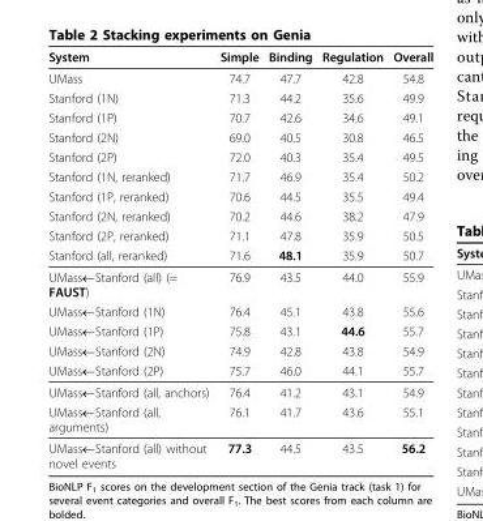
<table><thead><tr><td>System</td><td>Simple</td><td>Binding</td><td>Regulation</td><td>Overall</td></tr></thead><tbody><tr><td>UMass</td><td>74.7</td><td>47.7</td><td>42.8</td><td>54.8</td></tr><tr><td>Stanford (1N)</td><td>71.3</td><td>44.2</td><td>35.6</td><td>49.9</td></tr><tr><td>Stanford (1P)</td><td>70.7</td><td>42.6</td><td>34.6</td><td>49.1</td></tr><tr><td>Stanford (2N)</td><td>69.0</td><td>40.5</td><td>30.8</td><td>46.5</td></tr><tr><td>Stanford (2P)</td><td>72.0</td><td>40.3</td><td>35.4</td><td>49.5</td></tr><tr><td>Stanford (1N, reranked)</td><td>71.7</td><td>46.9</td><td>35.4</td><td>50.2</td></tr><tr><td>Stanford (1P, reranked)</td><td>70.6</td><td>44.5</td><td>35.5</td><td>49.4</td></tr><tr><td>Stanford (2N, reranked)</td><td>70.2</td><td>44.6</td><td>38.2</td><td>47.9</td></tr><tr><td>Stanford (2P, reranked)</td><td>71.1</td><td>47.8</td><td>35.9</td><td>50.5</td></tr><tr><td>Stanford (all, reranked)</td><td>71.6</td><td>48.1</td><td>35.9</td><td>50.7</td></tr><tr><td>UMass¬Stanford (all) (= FAUST)</td><td>76.9</td><td>43.5</td><td>44.0</td><td>55.9</td></tr><tr><td>UMass¬Stanford (1N)</td><td>76.4</td><td>45.1</td><td>43.8</td><td>55.6</td></tr><tr><td>UMass¬Stanford (1P)</td><td>75.8</td><td>43.1</td><td>44.6</td><td>55.7</td></tr><tr><td>UMass¬Stanford (2N)</td><td>74.9</td><td>42.8</td><td>43.8</td><td>54.9</td></tr><tr><td>UMass¬Stanford (2P)</td><td>75.7</td><td>46.0</td><td>44.1</td><td>55.7</td></tr><tr><td>UMass¬Stanford (all, anchors)</td><td>76.4</td><td>41.2</td><td>43.1</td><td>54.9</td></tr><tr><td>UMass¬Stanford (all, arguments)</td><td>76.1</td><td>41.7</td><td>43.6</td><td>55.1</td></tr><tr><td>UMass¬Stanford (all) without novel events</td><td>77.3</td><td>44.5</td><td>43.5</td><td>56.2</td></tr></tbody></table>